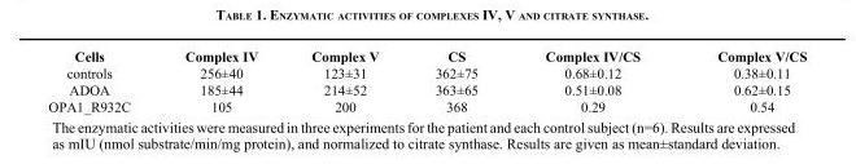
<table><thead><tr><td>Cells</td><td>Complex IV</td><td>Complex V</td><td>CS</td><td>Complex IV/CS</td><td>Complex V/CS</td></tr></thead><tbody><tr><td>controls</td><td>256±40</td><td>123±31</td><td>362±75</td><td>0.68±0.12</td><td>0.38±0.11</td></tr><tr><td>ADOA</td><td>185±44</td><td>214±52</td><td>363±65</td><td>0.51±0.08</td><td>0.62±0.15</td></tr><tr><td>OPA1_R932C</td><td>105</td><td>200</td><td>368</td><td>0.29</td><td>0.54</td></tr></tbody></table>